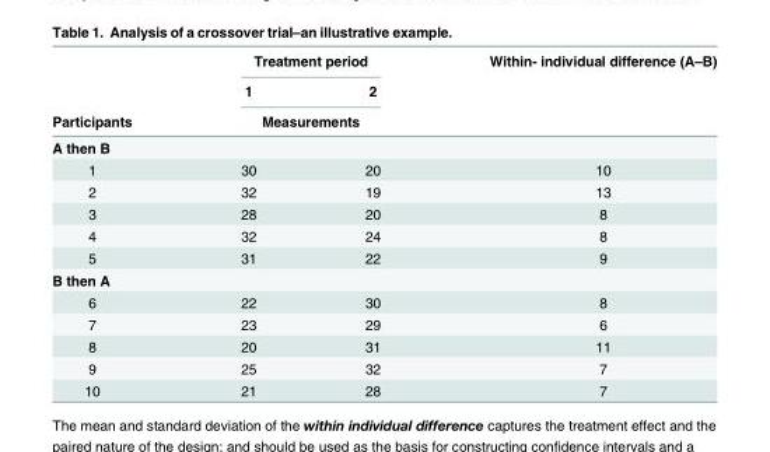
<table><thead><tr><td rowspan="3">Participants</td><td colspan="2">Treatment period</td><td rowspan="3">Within- individual difference (A–B)</td></tr><tr><td>1</td><td>2</td></tr><tr><td colspan="2">Measurements</td></tr></thead><tbody><tr><td colspan="4">A then B</td></tr><tr><td>1</td><td>30</td><td>20</td><td>10</td></tr><tr><td>2</td><td>32</td><td>19</td><td>13</td></tr><tr><td>3</td><td>28</td><td>20</td><td>8</td></tr><tr><td>4</td><td>32</td><td>24</td><td>8</td></tr><tr><td>5</td><td>31</td><td>22</td><td>9</td></tr><tr><td colspan="4">B then A</td></tr><tr><td>6</td><td>22</td><td>30</td><td>8</td></tr><tr><td>7</td><td>23</td><td>29</td><td>6</td></tr><tr><td>8</td><td>20</td><td>31</td><td>11</td></tr><tr><td>9</td><td>25</td><td>32</td><td>7</td></tr><tr><td>10</td><td>21</td><td>28</td><td>7</td></tr></tbody></table>